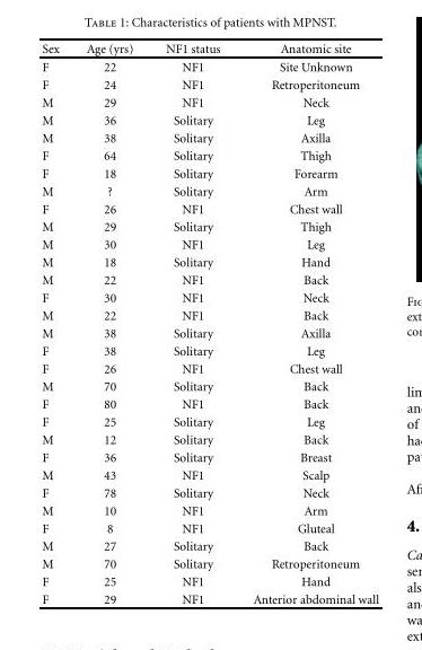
<table><thead><tr><td>Sex</td><td>Age (yrs)</td><td>NF1 status</td><td>Anatomic site</td></tr></thead><tbody><tr><td>F</td><td>22</td><td>NF1</td><td>Site Unknown</td></tr><tr><td>F</td><td>24</td><td>NF1</td><td>Retroperitoneum</td></tr><tr><td>M</td><td>29</td><td>NF1</td><td>Neck</td></tr><tr><td>M</td><td>36</td><td>Solitary</td><td>Leg</td></tr><tr><td>M</td><td>38</td><td>Solitary</td><td>Axilla</td></tr><tr><td>F</td><td>64</td><td>Solitary</td><td>Thigh</td></tr><tr><td>F</td><td>18</td><td>Solitary</td><td>Forearm</td></tr><tr><td>M</td><td>?</td><td>Solitary</td><td>Arm</td></tr><tr><td>F</td><td>26</td><td>NF1</td><td>Chest wall</td></tr><tr><td>M</td><td>29</td><td>Solitary</td><td>Thigh</td></tr><tr><td>M</td><td>30</td><td>NF1</td><td>Leg</td></tr><tr><td>M</td><td>18</td><td>Solitary</td><td>Hand</td></tr><tr><td>M</td><td>22</td><td>NF1</td><td>Back</td></tr><tr><td>F</td><td>30</td><td>NF1</td><td>Neck</td></tr><tr><td>M</td><td>22</td><td>NF1</td><td>Back</td></tr><tr><td>M</td><td>38</td><td>Solitary</td><td>Axilla</td></tr><tr><td>F</td><td>38</td><td>Solitary</td><td>Leg</td></tr><tr><td>F</td><td>26</td><td>NF1</td><td>Chest wall</td></tr><tr><td>M</td><td>70</td><td>Solitary</td><td>Back</td></tr><tr><td>F</td><td>80</td><td>NF1</td><td>Back</td></tr><tr><td>F</td><td>25</td><td>Solitary</td><td>Leg</td></tr><tr><td>M</td><td>12</td><td>Solitary</td><td>Back</td></tr><tr><td>F</td><td>36</td><td>Solitary</td><td>Breast</td></tr><tr><td>M</td><td>43</td><td>NF1</td><td>Scalp</td></tr><tr><td>F</td><td>78</td><td>Solitary</td><td>Neck</td></tr><tr><td>M</td><td>10</td><td>NF1</td><td>Arm</td></tr><tr><td>F</td><td>8</td><td>NF1</td><td>Gluteal</td></tr><tr><td>M</td><td>27</td><td>Solitary</td><td>Back</td></tr><tr><td>M</td><td>70</td><td>Solitary</td><td>Retroperitoneum</td></tr><tr><td>F</td><td>25</td><td>NF1</td><td>Hand</td></tr><tr><td>F</td><td>29</td><td>NF1</td><td>Anterior abdominal wall</td></tr></tbody></table>